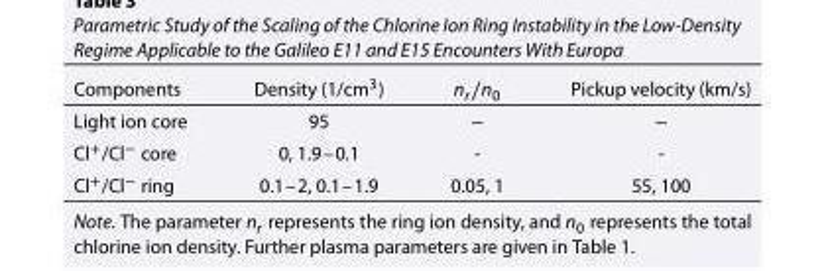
<table><thead><tr><td>Components</td><td>Density (1/cm<sup>3</sup>)</td><td>nr∕n0</td><td>Pickup velocity (km/s)</td></tr></thead><tbody><tr><td>Light ion core</td><td>95</td><td>−</td><td>−</td></tr><tr><td>Cl<sup>+</sup>/Cl<sup>−</sup> core</td><td>0, 1.9–0.1</td><td>-</td><td>-</td></tr><tr><td>Cl<sup>+</sup>/Cl<sup>−</sup> ring</td><td>0.1–2, 0.1–1.9</td><td>0.05, 1</td><td>55, 100</td></tr></tbody></table>